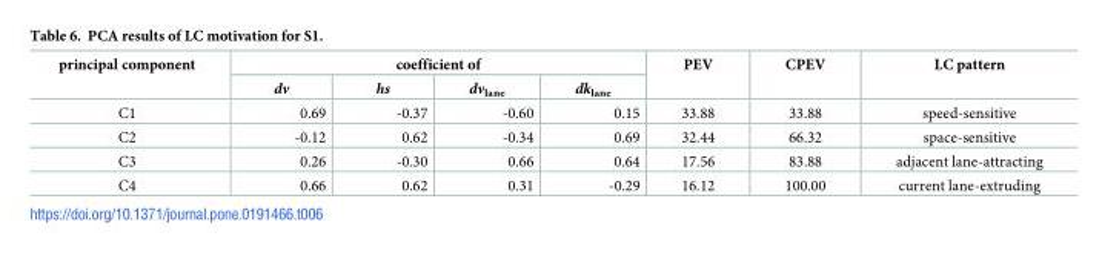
<table><thead><tr><td rowspan="2">principal component</td><td colspan="4">coefficient of</td><td rowspan="2">PEV</td><td rowspan="2">CPEV</td><td rowspan="2">LC pattern</td></tr><tr><td>dv</td><td>hs</td><td>dv<sub>lane</sub></td><td>dk<sub>lane</sub></td></tr></thead><tbody><tr><td>C1</td><td>0.69</td><td>-0.37</td><td>-0.60</td><td>0.15</td><td>33.88</td><td>33.88</td><td>speed-sensitive</td></tr><tr><td>C2</td><td>-0.12</td><td>0.62</td><td>-0.34</td><td>0.69</td><td>32.44</td><td>66.32</td><td>space-sensitive</td></tr><tr><td>C3</td><td>0.26</td><td>-0.30</td><td>0.66</td><td>0.64</td><td>17.56</td><td>83.88</td><td>adjacent lane-attracting</td></tr><tr><td>C4</td><td>0.66</td><td>0.62</td><td>0.31</td><td>-0.29</td><td>16.12</td><td>100.00</td><td>current lane-extruding</td></tr></tbody></table>